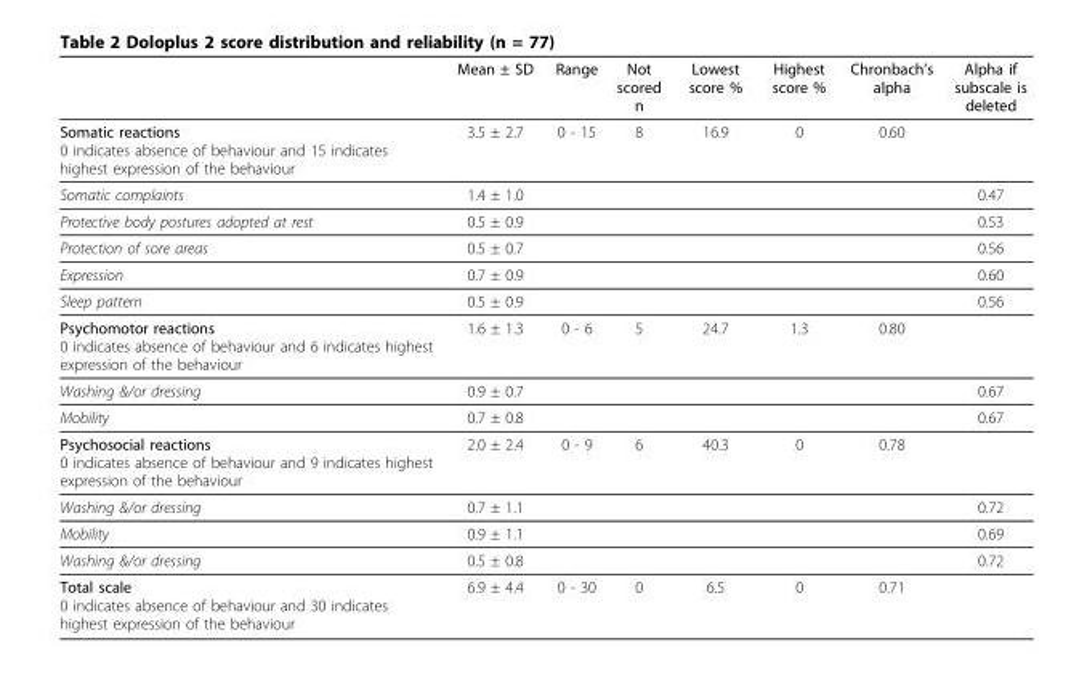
<table><thead><tr><td></td><td>Mean ± SD</td><td>Range</td><td>Not scored n</td><td>Lowest score %</td><td>Highest score %</td><td>Chronbach’s alpha</td><td>Alpha if subscale is deleted</td></tr></thead><tbody><tr><td>Somatic reactions 0 indicates absence of behaviour and 15 indicates highest expression of the behaviour</td><td>3.5 ± 2.7</td><td>0 - 15</td><td>8</td><td>16.9</td><td>0</td><td>0.60</td><td></td></tr><tr><td>Somatic complaints</td><td>1.4 ± 1.0</td><td></td><td></td><td></td><td></td><td></td><td>0.47</td></tr><tr><td>Protective body postures adopted at rest</td><td>0.5 ± 0.9</td><td></td><td></td><td></td><td></td><td></td><td>0.53</td></tr><tr><td>Protection of sore areas</td><td>0.5 ± 0.7</td><td></td><td></td><td></td><td></td><td></td><td>0.56</td></tr><tr><td>Expression</td><td>0.7 ± 0.9</td><td></td><td></td><td></td><td></td><td></td><td>0.60</td></tr><tr><td>Sleep pattern</td><td>0.5 ± 0.9</td><td></td><td></td><td></td><td></td><td></td><td>0.56</td></tr><tr><td>Psychomotor reactions 0 indicates absence of behaviour and 6 indicates highest expression of the behaviour</td><td>1.6 ± 1.3</td><td>0 - 6</td><td>5</td><td>24.7</td><td>1.3</td><td>0.80</td><td></td></tr><tr><td>Washing &amp;/or dressing</td><td>0.9 ± 0.7</td><td></td><td></td><td></td><td></td><td></td><td>0.67</td></tr><tr><td>Mobility</td><td>0.7 ± 0.8</td><td></td><td></td><td></td><td></td><td></td><td>0.67</td></tr><tr><td>Psychosocial reactions 0 indicates absence of behaviour and 9 indicates highest expression of the behaviour</td><td>2.0 ± 2.4</td><td>0 - 9</td><td>6</td><td>40.3</td><td>0</td><td>0.78</td><td></td></tr><tr><td>Washing &amp;/or dressing</td><td>0.7 ± 1.1</td><td></td><td></td><td></td><td></td><td></td><td>0.72</td></tr><tr><td>Mobility</td><td>0.9 ± 1.1</td><td></td><td></td><td></td><td></td><td></td><td>0.69</td></tr><tr><td>Washing &amp;/or dressing</td><td>0.5 ± 0.8</td><td></td><td></td><td></td><td></td><td></td><td>0.72</td></tr><tr><td>Total scale 0 indicates absence of behaviour and 30 indicates highest expression of the behaviour</td><td>6.9 ± 4.4</td><td>0 - 30</td><td>0</td><td>6.5</td><td>0</td><td>0.71</td><td></td></tr></tbody></table>